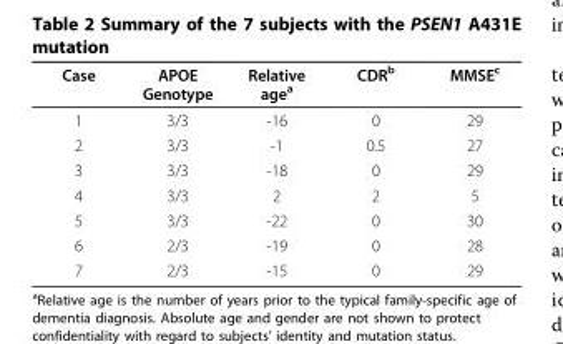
<table><thead><tr><td>Case</td><td>APOE Genotype</td><td>Relative age<sup>a</sup></td><td>CDR<sup>b</sup></td><td>MMSE<sup>c</sup></td></tr></thead><tbody><tr><td>1</td><td>3/3</td><td>-16</td><td>0</td><td>29</td></tr><tr><td>2</td><td>3/3</td><td>-1</td><td>0.5</td><td>27</td></tr><tr><td>3</td><td>3/3</td><td>-18</td><td>0</td><td>29</td></tr><tr><td>4</td><td>3/3</td><td>2</td><td>2</td><td>5</td></tr><tr><td>5</td><td>3/3</td><td>-22</td><td>0</td><td>30</td></tr><tr><td>6</td><td>2/3</td><td>-19</td><td>0</td><td>28</td></tr><tr><td>7</td><td>2/3</td><td>-15</td><td>0</td><td>29</td></tr></tbody></table>